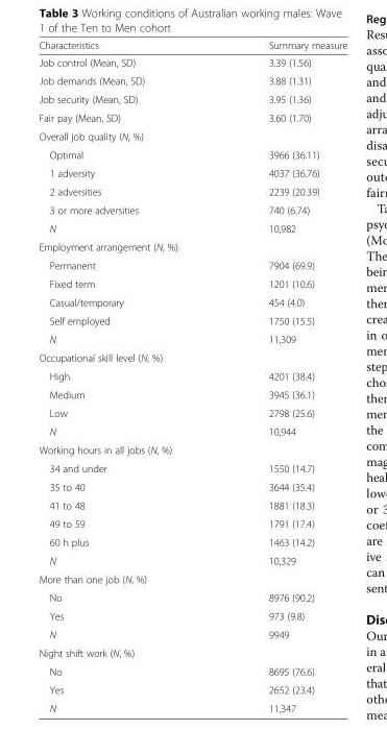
<table><thead><tr><td>Characteristics</td><td>Summary measure</td></tr></thead><tbody><tr><td>Job control (Mean, SD)</td><td>3.39 (1.56)</td></tr><tr><td>Job demands (Mean, SD)</td><td>3.88 (1.31)</td></tr><tr><td>Job security (Mean, SD)</td><td>3.95 (1.36)</td></tr><tr><td>Fair pay (Mean, SD)</td><td>3.60 (1.70)</td></tr><tr><td colspan="2">Overall job quality (N, %)</td></tr><tr><td>Optimal</td><td>3966 (36.11)</td></tr><tr><td>1 adversity</td><td>4037 (36.76)</td></tr><tr><td>2 adversities</td><td>2239 (20.39)</td></tr><tr><td>3 or more adversities</td><td>740 (6.74)</td></tr><tr><td>N</td><td>10,982</td></tr><tr><td colspan="2">Employment arrangement (N, %)</td></tr><tr><td>Permanent</td><td>7904 (69.9)</td></tr><tr><td>Fixed term</td><td>1201 (10.6)</td></tr><tr><td>Casual/temporary</td><td>454 (4.0)</td></tr><tr><td>Self employed</td><td>1750 (15.5)</td></tr><tr><td>N</td><td>11,309</td></tr><tr><td colspan="2">Occupational skill level (N, %)</td></tr><tr><td>High</td><td>4201 (38.4)</td></tr><tr><td>Medium</td><td>3945 (36.1)</td></tr><tr><td>Low</td><td>2798 (25.6)</td></tr><tr><td>N</td><td>10,944</td></tr><tr><td colspan="2">Working hours in all jobs (N, %)</td></tr><tr><td>34 and under</td><td>1550 (14.7)</td></tr><tr><td>35 to 40</td><td>3644 (35.4)</td></tr><tr><td>41 to 48</td><td>1881 (18.3)</td></tr><tr><td>49 to 59</td><td>1791 (17.4)</td></tr><tr><td>60 h plus</td><td>1463 (14.2)</td></tr><tr><td>N</td><td>10,329</td></tr><tr><td colspan="2">More than one job (N, %)</td></tr><tr><td>No</td><td>8976 (90.2)</td></tr><tr><td>Yes</td><td>973 (9.8)</td></tr><tr><td>N</td><td>9949</td></tr><tr><td colspan="2">Night shift work (N, %)</td></tr><tr><td>No</td><td>8695 (76.6)</td></tr><tr><td>Yes</td><td>2652 (23.4)</td></tr><tr><td>N</td><td>11,347</td></tr></tbody></table>